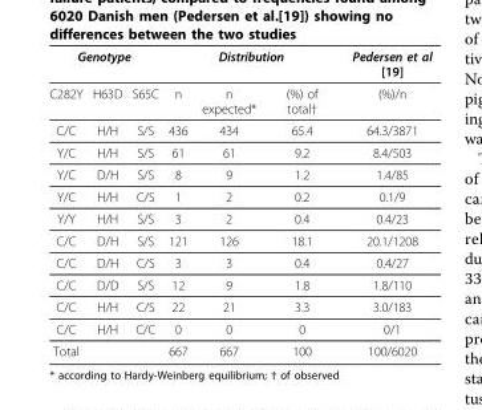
<table><thead><tr><td colspan="3">Genotype</td><td colspan="3">Distribution</td><td rowspan="2">Pedersen et al [19] (%)/n</td></tr><tr><td>C282Y</td><td>H63D</td><td>S65C</td><td>n</td><td>n expected*</td><td>(%) of total†</td></tr></thead><tbody><tr><td>C/C</td><td>H/H</td><td>S/S</td><td>436</td><td>434</td><td>65.4</td><td>64.3/3871</td></tr><tr><td>Y/C</td><td>H/H</td><td>S/S</td><td>61</td><td>61</td><td>9.2</td><td>8.4/503</td></tr><tr><td>Y/C</td><td>D/H</td><td>S/S</td><td>8</td><td>9</td><td>1.2</td><td>1.4/85</td></tr><tr><td>Y/C</td><td>H/H</td><td>C/S</td><td>1</td><td>2</td><td>0.2</td><td>0.1/9</td></tr><tr><td>Y/Y</td><td>H/H</td><td>S/S</td><td>3</td><td>2</td><td>0.4</td><td>0.4/23</td></tr><tr><td>C/C</td><td>D/H</td><td>S/S</td><td>121</td><td>126</td><td>18.1</td><td>20.1/1208</td></tr><tr><td>C/C</td><td>D/H</td><td>C/S</td><td>3</td><td>3</td><td>0.4</td><td>0.4/27</td></tr><tr><td>C/C</td><td>D/D</td><td>S/S</td><td>12</td><td>9</td><td>1.8</td><td>1.8/110</td></tr><tr><td>C/C</td><td>H/H</td><td>C/S</td><td>22</td><td>21</td><td>3.3</td><td>3.0/183</td></tr><tr><td>C/C</td><td>H/H</td><td>C/C</td><td>0</td><td>0</td><td>0</td><td>0/1</td></tr><tr><td>Total</td><td></td><td></td><td>667</td><td>667</td><td>100</td><td>100/6020</td></tr></tbody></table>